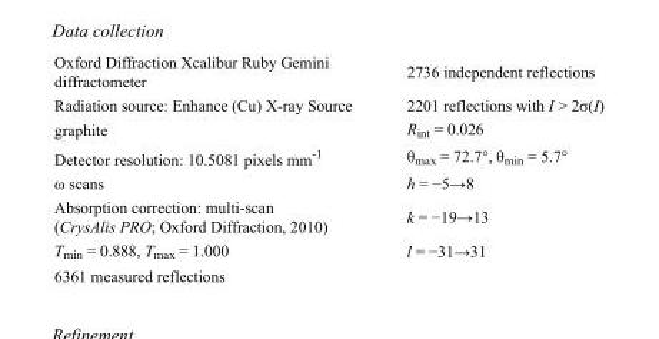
<table><tbody><tr><td>Oxford Diffraction Xcalibur Ruby Gemini diffractometer</td><td>2736 independent reflections</td></tr><tr><td>Radiation source: Enhance (Cu) X-ray Source</td><td>2201 reflections with I &gt; 2σ(I)</td></tr><tr><td>graphite</td><td>R<sub>int</sub> = 0.026</td></tr><tr><td>Detector resolution: 10.5081 pixels mm<sup>-1</sup></td><td>θ<sub>max</sub> = 72.7°, θ<sub>min</sub> = 5.7°</td></tr><tr><td>ω scans</td><td>h = −5→8</td></tr><tr><td>Absorption correction: multi-scan (CrysAlis PRO; Oxford Diffraction, 2010)</td><td>k = −19→13</td></tr><tr><td>T<sub>min</sub> = 0.888, T<sub>max</sub> = 1.000</td><td>l = −31→31</td></tr><tr><td>6361 measured reflections</td><td></td></tr></tbody></table>